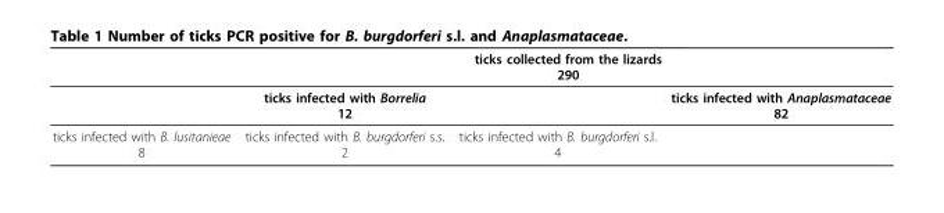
<table><thead><tr><td rowspan="2"></td><td colspan="3">ticks collected from the lizards 290</td></tr><tr><td>ticks infected with Borrelia 12</td><td></td><td>ticks infected with Anaplasmataceae 82</td></tr></thead><tbody><tr><td>ticks infected with B. lusitanieae 8</td><td>ticks infected with B. burgdorferi s.s. 2</td><td>ticks infected with B. burgdorferi s.l. 4</td><td></td></tr></tbody></table>